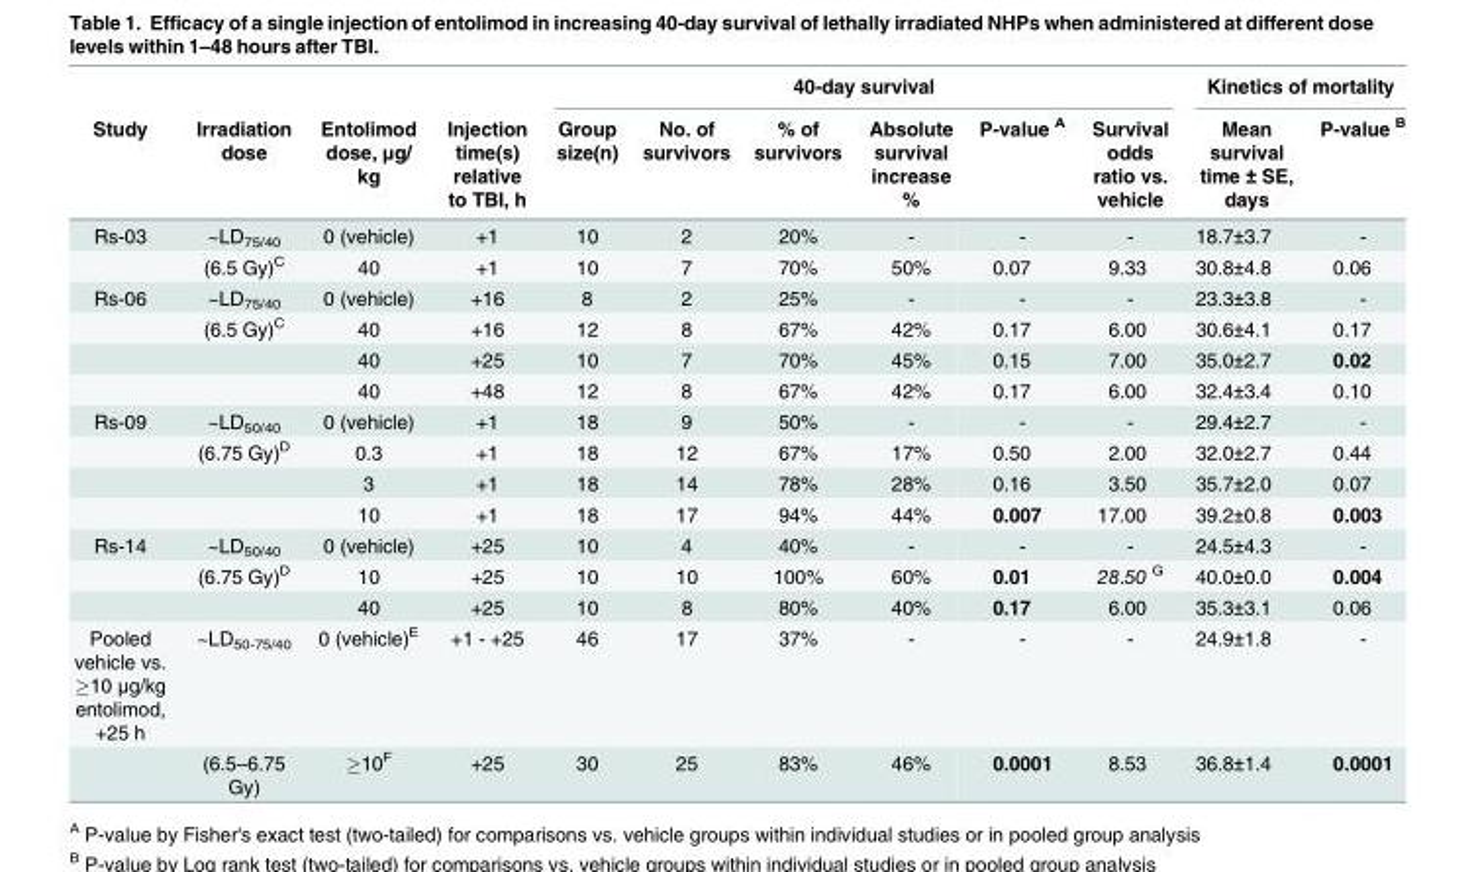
<table><thead><tr><td rowspan="2">Study</td><td rowspan="2">Irradiation dose</td><td rowspan="2">Entolimod dose, μg/ kg</td><td rowspan="2">Injection time(s) relative to TBI, h</td><td colspan="6">40-day survival</td><td colspan="2">Kinetics of mortality</td></tr><tr><td>Group size(n)</td><td>No. of survivors</td><td>% of survivors</td><td>Absolute survival increase %</td><td>P-value <sup>A</sup></td><td>Survival odds ratio vs. vehicle</td><td>Mean survival time ± SE, days</td><td>P-value <sup>B</sup></td></tr></thead><tbody><tr><td rowspan="2">Rs-03</td><td>~LD<sub>75/40</sub></td><td>0 (vehicle)</td><td>+1</td><td>10</td><td>2</td><td>20%</td><td>-</td><td>-</td><td>-</td><td>18.7±3.7</td><td>-</td></tr><tr><td>(6.5 Gy)<sup>C</sup></td><td>40</td><td>+1</td><td>10</td><td>7</td><td>70%</td><td>50%</td><td>0.07</td><td>9.33</td><td>30.8±4.8</td><td>0.06</td></tr><tr><td rowspan="4">Rs-06</td><td>~LD<sub>75/40</sub></td><td>0 (vehicle)</td><td>+16</td><td>8</td><td>2</td><td>25%</td><td>-</td><td>-</td><td>-</td><td>23.3±3.8</td><td>-</td></tr><tr><td>(6.5 Gy)<sup>C</sup></td><td>40</td><td>+16</td><td>12</td><td>8</td><td>67%</td><td>42%</td><td>0.17</td><td>6.00</td><td>30.6±4.1</td><td>0.17</td></tr><tr><td></td><td>40</td><td>+25</td><td>10</td><td>7</td><td>70%</td><td>45%</td><td>0.15</td><td>7.00</td><td>35.0±2.7</td><td>0.02</td></tr><tr><td></td><td>40</td><td>+48</td><td>12</td><td>8</td><td>67%</td><td>42%</td><td>0.17</td><td>6.00</td><td>32.4±3.4</td><td>0.10</td></tr><tr><td rowspan="4">Rs-09</td><td>~LD<sub>50/40</sub></td><td>0 (vehicle)</td><td>+1</td><td>18</td><td>9</td><td>50%</td><td>-</td><td>-</td><td>-</td><td>29.4±2.7</td><td>-</td></tr><tr><td>(6.75 Gy)<sup>D</sup></td><td>0.3</td><td>+1</td><td>18</td><td>12</td><td>67%</td><td>17%</td><td>0.50</td><td>2.00</td><td>32.0±2.7</td><td>0.44</td></tr><tr><td></td><td>3</td><td>+1</td><td>18</td><td>14</td><td>78%</td><td>28%</td><td>0.16</td><td>3.50</td><td>35.7±2.0</td><td>0.07</td></tr><tr><td></td><td>10</td><td>+1</td><td>18</td><td>17</td><td>94%</td><td>44%</td><td>0.007</td><td>17.00</td><td>39.2±0.8</td><td>0.003</td></tr><tr><td rowspan="3">Rs-14</td><td>~LD<sub>50/40</sub></td><td>0 (vehicle)</td><td>+25</td><td>10</td><td>4</td><td>40%</td><td>-</td><td>-</td><td>-</td><td>24.5±4.3</td><td>-</td></tr><tr><td>(6.75 Gy)<sup>D</sup></td><td>10</td><td>+25</td><td>10</td><td>10</td><td>100%</td><td>60%</td><td>0.01</td><td>28.50 <sup>G</sup></td><td>40.0±0.0</td><td>0.004</td></tr><tr><td></td><td>40</td><td>+25</td><td>10</td><td>8</td><td>80%</td><td>40%</td><td>0.17</td><td>6.00</td><td>35.3±3.1</td><td>0.06</td></tr><tr><td rowspan="2">Pooled vehicle vs. ≥10 μg/kg entolimod, +25 h</td><td>~LD<sub>50-75/40</sub></td><td>0 (vehicle)<sup>E</sup></td><td>+1 - +25</td><td>46</td><td>17</td><td>37%</td><td>-</td><td>-</td><td>-</td><td>24.9±1.8</td><td>-</td></tr><tr><td>(6.5–6.75 Gy)</td><td>≥10<sup>F</sup></td><td>+25</td><td>30</td><td>25</td><td>83%</td><td>46%</td><td>0.0001</td><td>8.53</td><td>36.8±1.4</td><td>0.0001</td></tr></tbody></table>